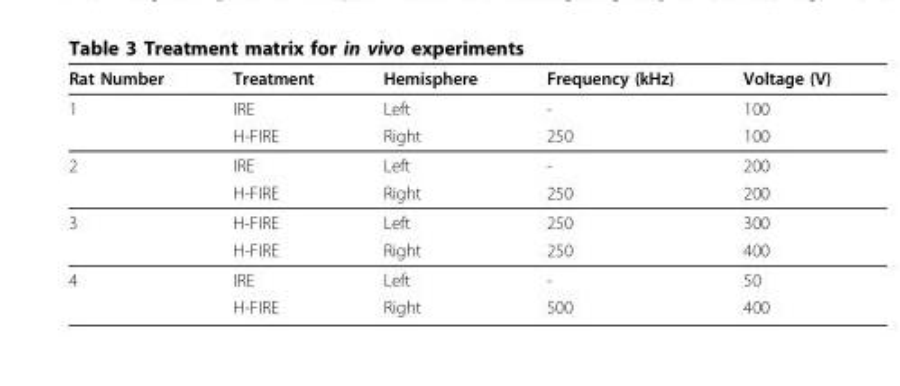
<table><thead><tr><td>Rat Number</td><td>Treatment</td><td>Hemisphere</td><td>Frequency (kHz)</td><td>Voltage (V)</td></tr></thead><tbody><tr><td rowspan="2">1</td><td>IRE</td><td>Left</td><td>-</td><td>100</td></tr><tr><td>H-FIRE</td><td>Right</td><td>250</td><td>100</td></tr><tr><td rowspan="2">2</td><td>IRE</td><td>Left</td><td>-</td><td>200</td></tr><tr><td>H-FIRE</td><td>Right</td><td>250</td><td>200</td></tr><tr><td rowspan="2">3</td><td>H-FIRE</td><td>Left</td><td>250</td><td>300</td></tr><tr><td>H-FIRE</td><td>Right</td><td>250</td><td>400</td></tr><tr><td rowspan="2">4</td><td>IRE</td><td>Left</td><td>-</td><td>50</td></tr><tr><td>H-FIRE</td><td>Right</td><td>500</td><td>400</td></tr></tbody></table>